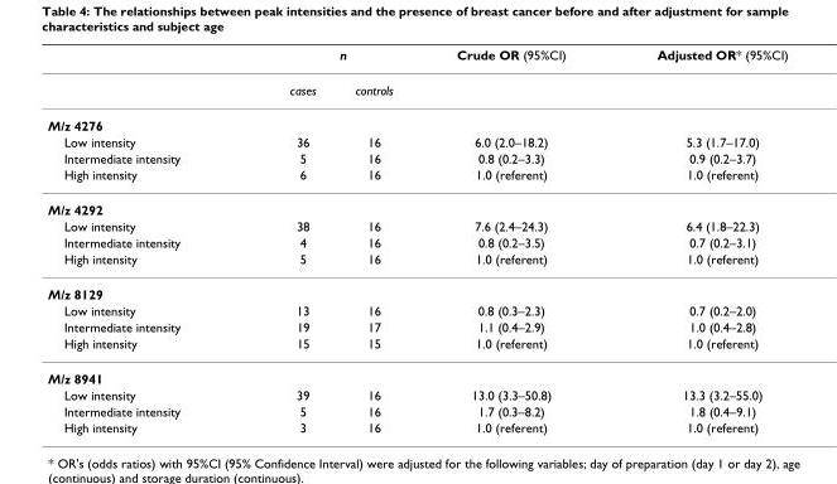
<table><thead><tr><td rowspan="2"></td><td colspan="2">n</td><td rowspan="2">Crude OR (95%CI)</td><td rowspan="2">Adjusted OR* (95%CI)</td></tr><tr><td>cases</td><td>controls</td></tr></thead><tbody><tr><td colspan="5">M/z 4276</td></tr><tr><td>Low intensity</td><td>36</td><td>16</td><td>6.0 (2.0–18.2)</td><td>5.3 (1.7–17.0)</td></tr><tr><td>Intermediate intensity</td><td>5</td><td>16</td><td>0.8 (0.2–3.3)</td><td>0.9 (0.2–3.7)</td></tr><tr><td>High intensity</td><td>6</td><td>16</td><td>1.0 (referent)</td><td>1.0 (referent)</td></tr><tr><td colspan="5">M/z 4292</td></tr><tr><td>Low intensity</td><td>38</td><td>16</td><td>7.6 (2.4–24.3)</td><td>6.4 (1.8–22.3)</td></tr><tr><td>Intermediate intensity</td><td>4</td><td>16</td><td>0.8 (0.2–3.5)</td><td>0.7 (0.2–3.1)</td></tr><tr><td>High intensity</td><td>5</td><td>16</td><td>1.0 (referent)</td><td>1.0 (referent)</td></tr><tr><td colspan="5">M/z 8129</td></tr><tr><td>Low intensity</td><td>13</td><td>16</td><td>0.8 (0.3–2.3)</td><td>0.7 (0.2–2.0)</td></tr><tr><td>Intermediate intensity</td><td>19</td><td>17</td><td>1.1 (0.4–2.9)</td><td>1.0 (0.4–2.8)</td></tr><tr><td>High intensity</td><td>15</td><td>15</td><td>1.0 (referent)</td><td>1.0 (referent)</td></tr><tr><td colspan="5">M/z 8941</td></tr><tr><td>Low intensity</td><td>39</td><td>16</td><td>13.0 (3.3–50.8)</td><td>13.3 (3.2–55.0)</td></tr><tr><td>Intermediate intensity</td><td>5</td><td>16</td><td>1.7 (0.3–8.2)</td><td>1.8 (0.4–9.1)</td></tr><tr><td>High intensity</td><td>3</td><td>16</td><td>1.0 (referent)</td><td>1.0 (referent)</td></tr></tbody></table>